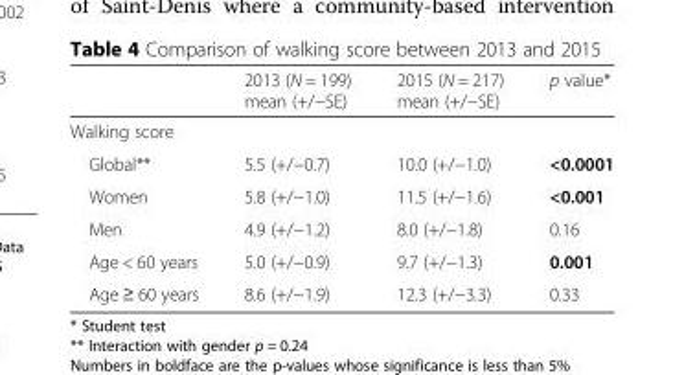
<table><thead><tr><td></td><td>2013 (N = 199) mean (+/−SE)</td><td>2015 (N = 217) mean (+/−SE)</td><td>p value*</td></tr></thead><tbody><tr><td colspan="4">Walking score</td></tr><tr><td>Global**</td><td>5.5 (+/−0.7)</td><td>10.0 (+/−1.0)</td><td>&lt;0.0001</td></tr><tr><td>Women</td><td>5.8 (+/−1.0)</td><td>11.5 (+/−1.6)</td><td>&lt;0.001</td></tr><tr><td>Men</td><td>4.9 (+/−1.2)</td><td>8.0 (+/−1.8)</td><td>0.16</td></tr><tr><td>Age &lt; 60 years</td><td>5.0 (+/−0.9)</td><td>9.7 (+/−1.3)</td><td>0.001</td></tr><tr><td>Age ≥ 60 years</td><td>8.6 (+/−1.9)</td><td>12.3 (+/−3.3)</td><td>0.33</td></tr></tbody></table>